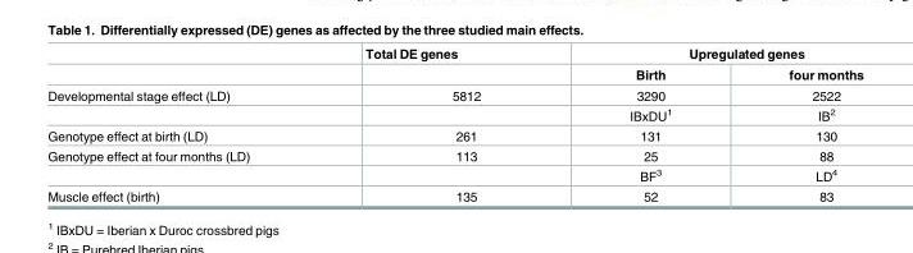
<table><thead><tr><td rowspan="2"></td><td rowspan="2">Total DE genes</td><td colspan="2">Upregulated genes</td></tr><tr><td>Birth</td><td>four months</td></tr></thead><tbody><tr><td rowspan="2">Developmental stage effect (LD)</td><td>5812</td><td>3290</td><td>2522</td></tr><tr><td></td><td>IBxDU<sup>1</sup></td><td>IB<sup>2</sup></td></tr><tr><td>Genotype effect at birth (LD)</td><td>261</td><td>131</td><td>130</td></tr><tr><td rowspan="2">Genotype effect at four months (LD)</td><td>113</td><td>25</td><td>88</td></tr><tr><td></td><td>BF<sup>3</sup></td><td>LD<sup>4</sup></td></tr><tr><td>Muscle effect (birth)</td><td>135</td><td>52</td><td>83</td></tr></tbody></table>